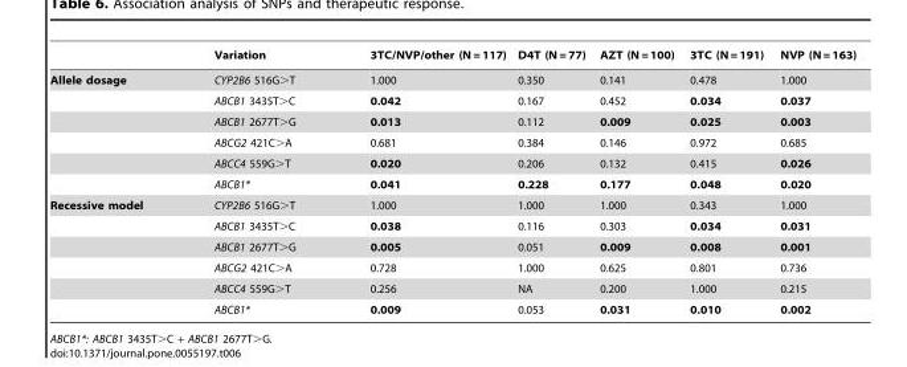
<table><thead><tr><td></td><td>Variation</td><td>3TC/NVP/other (N = 117)</td><td>D4T (N = 77)</td><td>AZT (N = 100)</td><td>3TC (N = 191)</td><td>NVP (N = 163)</td></tr></thead><tbody><tr><td rowspan="6">Allele dosage</td><td>CYP2B6 516G&gt;T</td><td>1.000</td><td>0.350</td><td>0.141</td><td>0.478</td><td>1.000</td></tr><tr><td>ABCB1 3435T&gt;C</td><td>0.042</td><td>0.167</td><td>0.452</td><td>0.034</td><td>0.037</td></tr><tr><td>ABCB1 2677T&gt;G</td><td>0.013</td><td>0.112</td><td>0.009</td><td>0.025</td><td>0.003</td></tr><tr><td>ABCG2 421C&gt;A</td><td>0.681</td><td>0.384</td><td>0.146</td><td>0.972</td><td>0.685</td></tr><tr><td>ABCC4 559G&gt;T</td><td>0.020</td><td>0.206</td><td>0.132</td><td>0.415</td><td>0.026</td></tr><tr><td>ABCB1*</td><td>0.041</td><td>0.228</td><td>0.177</td><td>0.048</td><td>0.020</td></tr><tr><td rowspan="6">Recessive model</td><td>CYP2B6 516G&gt;T</td><td>1.000</td><td>1.000</td><td>1.000</td><td>0.343</td><td>1.000</td></tr><tr><td>ABCB1 3435T&gt;C</td><td>0.038</td><td>0.116</td><td>0.303</td><td>0.034</td><td>0.031</td></tr><tr><td>ABCB1 2677T&gt;G</td><td>0.005</td><td>0.051</td><td>0.009</td><td>0.008</td><td>0.001</td></tr><tr><td>ABCG2 421C&gt;A</td><td>0.728</td><td>1.000</td><td>0.625</td><td>0.801</td><td>0.736</td></tr><tr><td>ABCC4 559G&gt;T</td><td>0.256</td><td>NA</td><td>0.200</td><td>1.000</td><td>0.215</td></tr><tr><td>ABCB1*</td><td>0.009</td><td>0.053</td><td>0.031</td><td>0.010</td><td>0.002</td></tr></tbody></table>